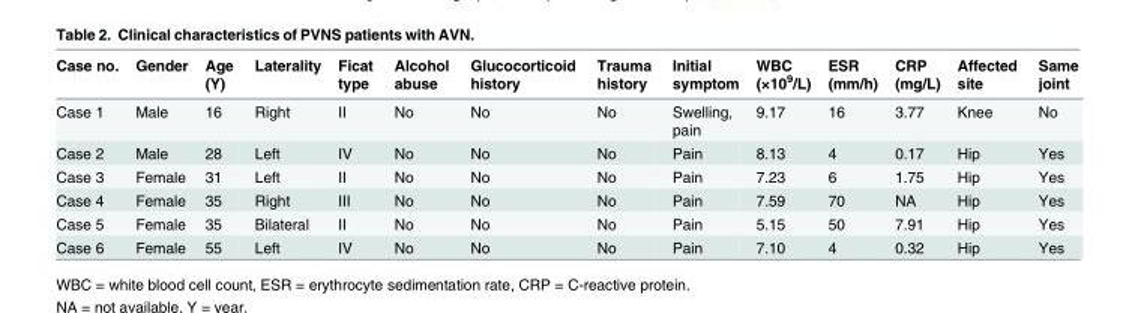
<table><thead><tr><td>Case no.</td><td>Gender</td><td>Age (Y)</td><td>Laterality</td><td>Ficat type</td><td>Alcohol abuse</td><td>Glucocorticoid history</td><td>Trauma history</td><td>Initial symptom</td><td>WBC (×10<sup>9</sup>/L)</td><td>ESR (mm/h)</td><td>CRP (mg/L)</td><td>Affected site</td><td>Same joint</td></tr></thead><tbody><tr><td>Case 1</td><td>Male</td><td>16</td><td>Right</td><td>II</td><td>No</td><td>No</td><td>No</td><td>Swelling, pain</td><td>9.17</td><td>16</td><td>3.77</td><td>Knee</td><td>No</td></tr><tr><td>Case 2</td><td>Male</td><td>28</td><td>Left</td><td>IV</td><td>No</td><td>No</td><td>No</td><td>Pain</td><td>8.13</td><td>4</td><td>0.17</td><td>Hip</td><td>Yes</td></tr><tr><td>Case 3</td><td>Female</td><td>31</td><td>Left</td><td>II</td><td>No</td><td>No</td><td>No</td><td>Pain</td><td>7.23</td><td>6</td><td>1.75</td><td>Hip</td><td>Yes</td></tr><tr><td>Case 4</td><td>Female</td><td>35</td><td>Right</td><td>III</td><td>No</td><td>No</td><td>No</td><td>Pain</td><td>7.59</td><td>70</td><td>NA</td><td>Hip</td><td>Yes</td></tr><tr><td>Case 5</td><td>Female</td><td>35</td><td>Bilateral</td><td>II</td><td>No</td><td>No</td><td>No</td><td>Pain</td><td>5.15</td><td>50</td><td>7.91</td><td>Hip</td><td>Yes</td></tr><tr><td>Case 6</td><td>Female</td><td>55</td><td>Left</td><td>IV</td><td>No</td><td>No</td><td>No</td><td>Pain</td><td>7.10</td><td>4</td><td>0.32</td><td>Hip</td><td>Yes</td></tr></tbody></table>